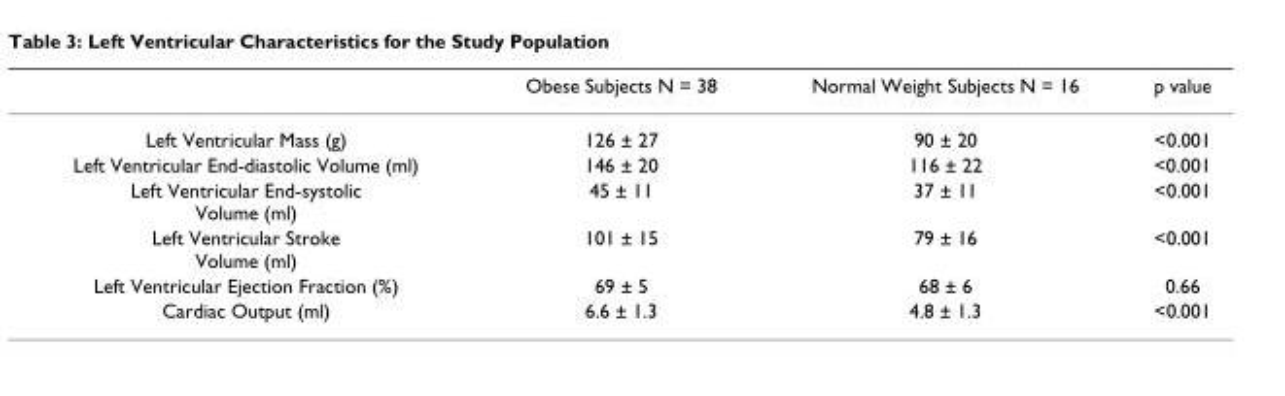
<table><thead><tr><td></td><td>Obese Subjects N = 38</td><td>Normal Weight Subjects N = 16</td><td>p value</td></tr></thead><tbody><tr><td>Left Ventricular Mass (g)</td><td>126 ± 27</td><td>90 ± 20</td><td>&lt;0.001</td></tr><tr><td>Left Ventricular End-diastolic Volume (ml)</td><td>146 ± 20</td><td>116 ± 22</td><td>&lt;0.001</td></tr><tr><td>Left Ventricular End-systolic Volume (ml)</td><td>45 ± 11</td><td>37 ± 11</td><td>&lt;0.001</td></tr><tr><td>Left Ventricular Stroke Volume (ml)</td><td>101 ± 15</td><td>79 ± 16</td><td>&lt;0.001</td></tr><tr><td>Left Ventricular Ejection Fraction (%)</td><td>69 ± 5</td><td>68 ± 6</td><td>0.66</td></tr><tr><td>Cardiac Output (ml)</td><td>6.6 ± 1.3</td><td>4.8 ± 1.3</td><td>&lt;0.001</td></tr></tbody></table>